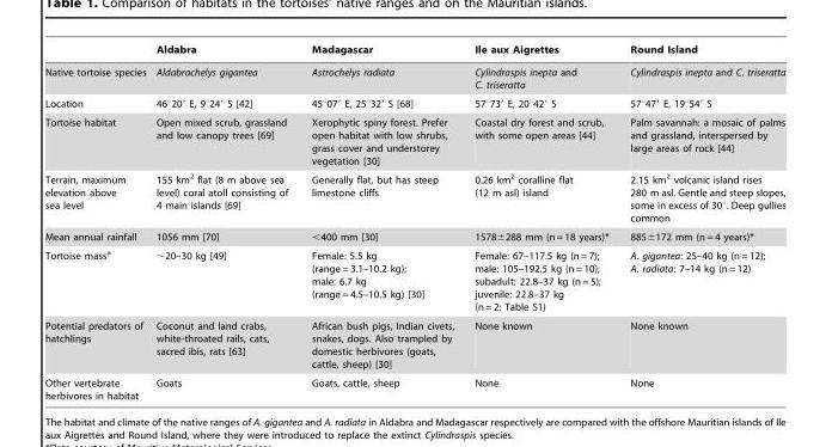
<table><thead><tr><td></td><td>Aldabra</td><td>Madagascar</td><td>Ile aux Aigrettes</td><td>Round Island</td></tr></thead><tbody><tr><td>Native tortoise species</td><td>Aldabrachelys gigantea</td><td>Astrochelys radiata</td><td>Cylindraspis inepta and C. triseratta</td><td>Cylindraspis inepta and C. triseratta</td></tr><tr><td>Location</td><td>46°20′ E, 9°24′ S [42]</td><td>45°07′ E, 25°32′ S [68]</td><td>57°73′ E, 20°42′ S</td><td>57°47′ E, 19°54′ S</td></tr><tr><td>Tortoise habitat</td><td>Open mixed scrub, grassland and low canopy trees [69]</td><td>Xerophytic spiny forest. Prefer open habitat with low shrubs, grass cover and understorey vegetation [30]</td><td>Coastal dry forest and scrub, with some open areas [44]</td><td>Palm savannah: a mosaic of palms and grassland, interspersed by large areas of rock [44]</td></tr><tr><td>Terrain, maximum elevation above sea level</td><td>155 km<sup>2</sup> flat (8 m above sea level) coral atoll consisting of 4 main islands [69]</td><td>Generally flat, but has steep limestone cliffs</td><td>0.26 km<sup>2</sup> coralline flat (12 m asl) island</td><td>2.15 km<sup>2</sup> volcanic island rises 280 m asl. Gentle and steep slopes, some in excess of 30°. Deep gullies common</td></tr><tr><td>Mean annual rainfall</td><td>1056 mm [70]</td><td>&lt;400 mm [30]</td><td>1578±288 mm (n = 18 years)*</td><td>885±172 mm (n = 4 years)*</td></tr><tr><td>Tortoise mass<sup>a</sup></td><td>∼20–30 kg [49]</td><td>Female: 5.5 kg (range = 3.1–10.2 kg); male: 6.7 kg (range = 4.5–10.5 kg) [30]</td><td>Female: 67–117.5 kg (n = 7); male: 105–192.5 kg (n = 10); subadult: 22.8–37 kg (n = 5); juvenile: 22.8–37 kg (n = 2; Table S1)</td><td>A. gigantea: 25–40 kg (n = 12); A. radiata: 7–14 kg (n = 12)</td></tr><tr><td>Potential predators of hatchlings</td><td>Coconut and land crabs, white-throated rails, cats, sacred ibis, rats [63]</td><td>African bush pigs, Indian civets, snakes, dogs. Also trampled by domestic herbivores (goats, cattle, sheep) [30]</td><td>None known</td><td>None known</td></tr><tr><td>Other vertebrate herbivores in habitat</td><td>Goats</td><td>Goats, cattle, sheep</td><td>None</td><td>None</td></tr></tbody></table>